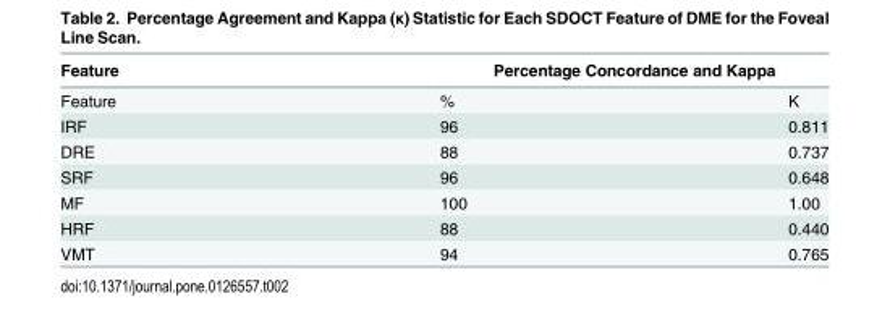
<table><thead><tr><td rowspan="2">Feature Feature</td><td colspan="2">Percentage Concordance and Kappa</td></tr><tr><td>%</td><td>Κ</td></tr></thead><tbody><tr><td>IRF</td><td>96</td><td>0.811</td></tr><tr><td>DRE</td><td>88</td><td>0.737</td></tr><tr><td>SRF</td><td>96</td><td>0.648</td></tr><tr><td>MF</td><td>100</td><td>1.00</td></tr><tr><td>HRF</td><td>88</td><td>0.440</td></tr><tr><td>VMT</td><td>94</td><td>0.765</td></tr></tbody></table>